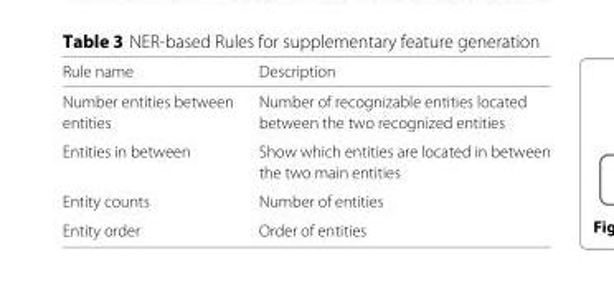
<table><thead><tr><td>Rule name</td><td>Description</td></tr></thead><tbody><tr><td>Number entities between</td><td>Number of recognizable entities located</td></tr><tr><td>entities</td><td>between the two recognized entities</td></tr><tr><td rowspan="2">Entities in between</td><td>Show which entities are located in between</td></tr><tr><td>the two main entities</td></tr><tr><td>Entity counts</td><td>Number of entities</td></tr><tr><td>Entity order</td><td>Order of entities</td></tr></tbody></table>